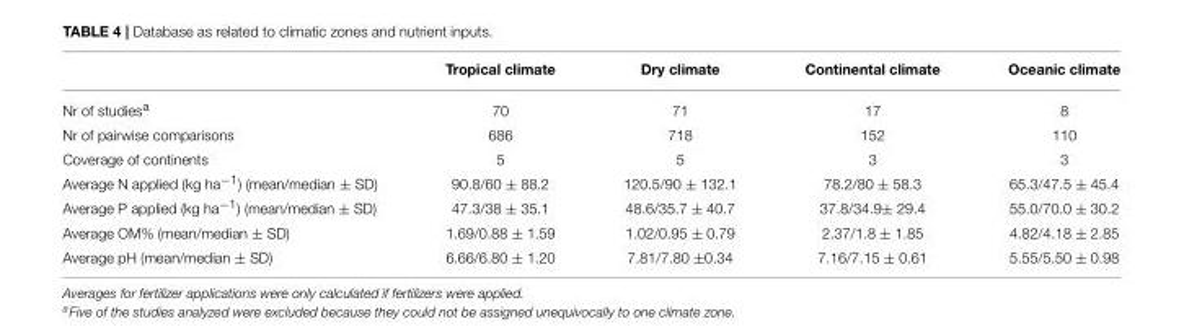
<table><thead><tr><td></td><td>Tropical climate</td><td>Dry climate</td><td>Continental climate</td><td>Oceanic climate</td></tr></thead><tbody><tr><td>Nr of studies<sup>a</sup></td><td>70</td><td>71</td><td>17</td><td>8</td></tr><tr><td>Nr of pairwise comparisons</td><td>686</td><td>718</td><td>152</td><td>110</td></tr><tr><td>Coverage of continents</td><td>5</td><td>5</td><td>3</td><td>3</td></tr><tr><td>Average N applied (kg ha<sup>−1</sup>) (mean/median ± SD)</td><td>90.8/60 ± 88.2</td><td>120.5/90 ± 132.1</td><td>78.2/80 ± 58.3</td><td>65.3/47.5 ± 45.4</td></tr><tr><td>Average P applied (kg ha<sup>−1</sup>) (mean/median ± SD)</td><td>47.3/38 ± 35.1</td><td>48.6/35.7 ± 40.7</td><td>37.8/34.9± 29.4</td><td>55.0/70.0 ± 30.2</td></tr><tr><td>Average OM% (mean/median ± SD)</td><td>1.69/0.88 ± 1.59</td><td>1.02/0.95 ± 0.79</td><td>2.37/1.8 ± 1.85</td><td>4.82/4.18 ± 2.85</td></tr><tr><td>Average pH (mean/median ± SD)</td><td>6.66/6.80 ± 1.20</td><td>7.81/7.80 ±0.34</td><td>7.16/7.15 ± 0.61</td><td>5.55/5.50 ± 0.98</td></tr></tbody></table>